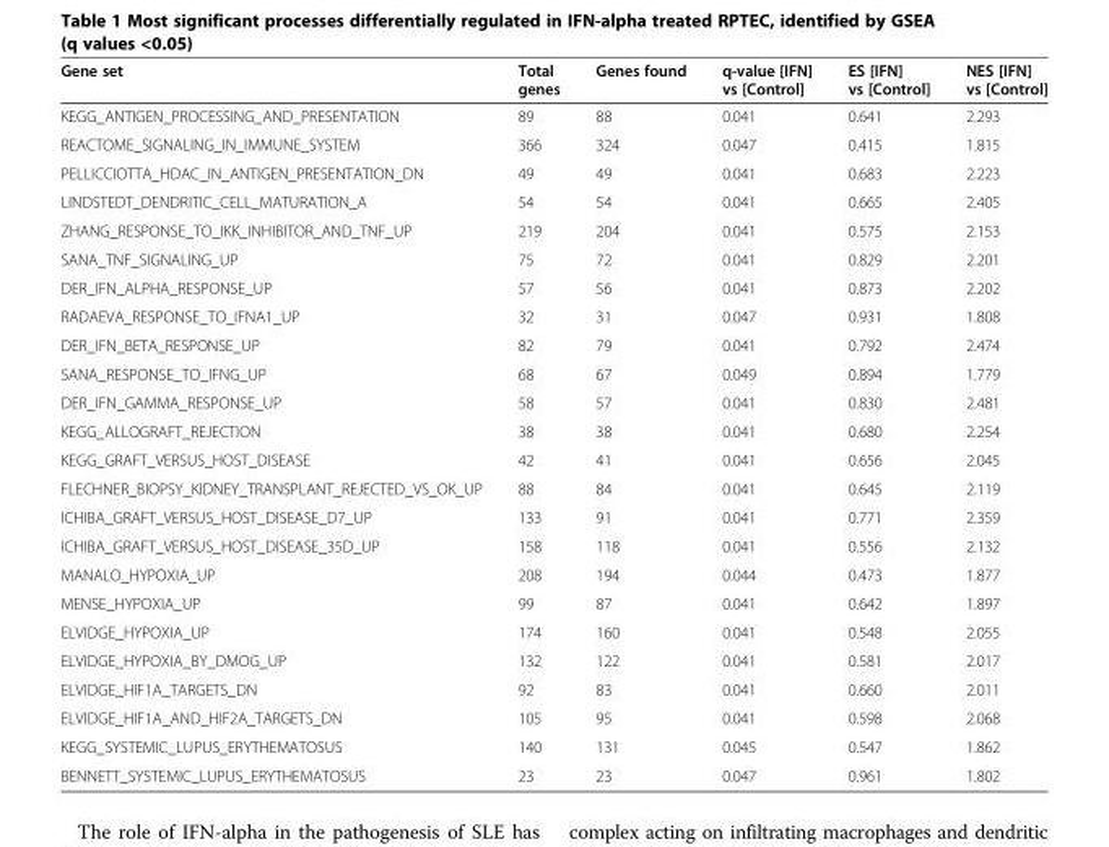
<table><thead><tr><td>Gene set</td><td>Total genes</td><td>Genes found</td><td>q-value [IFN] vs [Control]</td><td>ES [IFN] vs [Control]</td><td>NES [IFN] vs [Control]</td></tr></thead><tbody><tr><td>KEGG_ANTIGEN_PROCESSING_AND_PRESENTATION</td><td>89</td><td>88</td><td>0.041</td><td>0.641</td><td>2.293</td></tr><tr><td>REACTOME_SIGNALING_IN_IMMUNE_SYSTEM</td><td>366</td><td>324</td><td>0.047</td><td>0.415</td><td>1.815</td></tr><tr><td>PELLICCIOTTA_HDAC_IN_ANTIGEN_PRESENTATION_DN</td><td>49</td><td>49</td><td>0.041</td><td>0.683</td><td>2.223</td></tr><tr><td>LINDSTEDT_DENDRITIC_CELL_MATURATION_A</td><td>54</td><td>54</td><td>0.041</td><td>0.665</td><td>2.405</td></tr><tr><td>ZHANG_RESPONSE_TO_IKK_INHIBITOR_AND_TNF_UP</td><td>219</td><td>204</td><td>0.041</td><td>0.575</td><td>2.153</td></tr><tr><td>SANA_TNF_SIGNALING_UP</td><td>75</td><td>72</td><td>0.041</td><td>0.829</td><td>2.201</td></tr><tr><td>DER_IFN_ALPHA_RESPONSE_UP</td><td>57</td><td>56</td><td>0.041</td><td>0.873</td><td>2.202</td></tr><tr><td>RADAEVA_RESPONSE_TO_IFNA1_UP</td><td>32</td><td>31</td><td>0.047</td><td>0.931</td><td>1.808</td></tr><tr><td>DER_IFN_BETA_RESPONSE_UP</td><td>82</td><td>79</td><td>0.041</td><td>0.792</td><td>2.474</td></tr><tr><td>SANA_RESPONSE_TO_IFNG_UP</td><td>68</td><td>67</td><td>0.049</td><td>0.894</td><td>1.779</td></tr><tr><td>DER_IFN_GAMMA_RESPONSE_UP</td><td>58</td><td>57</td><td>0.041</td><td>0.830</td><td>2.481</td></tr><tr><td>KEGG_ALLOGRAFT_REJECTION</td><td>38</td><td>38</td><td>0.041</td><td>0.680</td><td>2.254</td></tr><tr><td>KEGG_GRAFT_VERSUS_HOST_DISEASE</td><td>42</td><td>41</td><td>0.041</td><td>0.656</td><td>2.045</td></tr><tr><td>FLECHNER_BIOPSY_KIDNEY_TRANSPLANT_REJECTED_VS_OK_UP</td><td>88</td><td>84</td><td>0.041</td><td>0.645</td><td>2.119</td></tr><tr><td>ICHIBA_GRAFT_VERSUS_HOST_DISEASE_D7_UP</td><td>133</td><td>91</td><td>0.041</td><td>0.771</td><td>2.359</td></tr><tr><td>ICHIBA_GRAFT_VERSUS_HOST_DISEASE_35D_UP</td><td>158</td><td>118</td><td>0.041</td><td>0.556</td><td>2.132</td></tr><tr><td>MANALO_HYPOXIA_UP</td><td>208</td><td>194</td><td>0.044</td><td>0.473</td><td>1.877</td></tr><tr><td>MENSE_HYPOXIA_UP</td><td>99</td><td>87</td><td>0.041</td><td>0.642</td><td>1.897</td></tr><tr><td>ELVIDGE_HYPOXIA_UP</td><td>174</td><td>160</td><td>0.041</td><td>0.548</td><td>2.055</td></tr><tr><td>ELVIDGE_HYPOXIA_BY_DMOG_UP</td><td>132</td><td>122</td><td>0.041</td><td>0.581</td><td>2.017</td></tr><tr><td>ELVIDGE_HIF1A_TARGETS_DN</td><td>92</td><td>83</td><td>0.041</td><td>0.660</td><td>2.011</td></tr><tr><td>ELVIDGE_HIF1A_AND_HIF2A_TARGETS_DN</td><td>105</td><td>95</td><td>0.041</td><td>0.598</td><td>2.068</td></tr><tr><td>KEGG_SYSTEMIC_LUPUS_ERYTHEMATOSUS</td><td>140</td><td>131</td><td>0.045</td><td>0.547</td><td>1.862</td></tr><tr><td>BENNETT_SYSTEMIC_LUPUS_ERYTHEMATOSUS</td><td>23</td><td>23</td><td>0.047</td><td>0.961</td><td>1.802</td></tr></tbody></table>